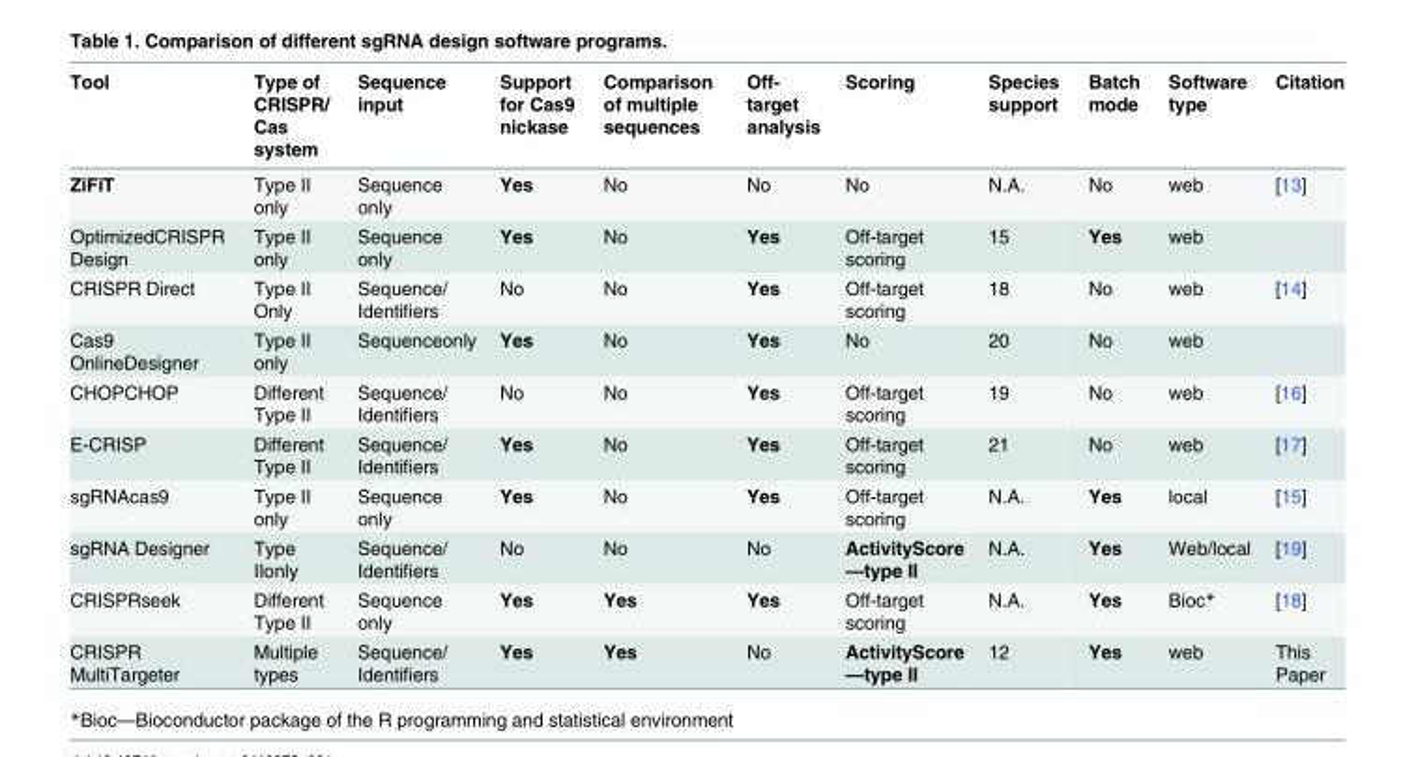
<table><thead><tr><td>Tool</td><td>Type of CRISPR/ Cas system</td><td>Sequence input</td><td>Support for Cas9 nickase</td><td>Comparison of multiple sequences</td><td>Off- target analysis</td><td>Scoring</td><td>Species support</td><td>Batch mode</td><td>Software type</td><td>Citation</td></tr></thead><tbody><tr><td>ZiFiT</td><td>Type II only</td><td>Sequence only</td><td>Yes</td><td>No</td><td>No</td><td>No</td><td>N.A.</td><td>No</td><td>web</td><td>[13]</td></tr><tr><td>OptimizedCRISPR Design</td><td>Type II only</td><td>Sequence only</td><td>Yes</td><td>No</td><td>Yes</td><td>Off-target scoring</td><td>15</td><td>Yes</td><td>web</td><td></td></tr><tr><td>CRISPR Direct</td><td>Type II Only</td><td>Sequence/ Identifiers</td><td>No</td><td>No</td><td>Yes</td><td>Off-target scoring</td><td>18</td><td>No</td><td>web</td><td>[14]</td></tr><tr><td>Cas9 OnlineDesigner</td><td>Type II only</td><td>Sequenceonly</td><td>Yes</td><td>No</td><td>Yes</td><td>No</td><td>20</td><td>No</td><td>web</td><td></td></tr><tr><td>CHOPCHOP</td><td>Different Type II</td><td>Sequence/ Identifiers</td><td>No</td><td>No</td><td>Yes</td><td>Off-target scoring</td><td>19</td><td>No</td><td>web</td><td>[16]</td></tr><tr><td>E-CRISP</td><td>Different Type II</td><td>Sequence/ Identifiers</td><td>Yes</td><td>No</td><td>Yes</td><td>Off-target scoring</td><td>21</td><td>No</td><td>web</td><td>[17]</td></tr><tr><td>sgRNAcas9</td><td>Type II only</td><td>Sequence only</td><td>Yes</td><td>No</td><td>Yes</td><td>Off-target scoring</td><td>N.A.</td><td>Yes</td><td>local</td><td>[15]</td></tr><tr><td>sgRNA Designer</td><td>Type IIonly</td><td>Sequence/ Identifiers</td><td>No</td><td>No</td><td>No</td><td>ActivityScore —type II</td><td>N.A.</td><td>Yes</td><td>Web/local</td><td>[19]</td></tr><tr><td>CRISPRseek</td><td>Different Type II</td><td>Sequence only</td><td>Yes</td><td>Yes</td><td>Yes</td><td>Off-target scoring</td><td>N.A.</td><td>Yes</td><td>Bioc*</td><td>[18]</td></tr><tr><td>CRISPR MultiTargeter</td><td>Multiple types</td><td>Sequence/ Identifiers</td><td>Yes</td><td>Yes</td><td>No</td><td>ActivityScore —type II</td><td>12</td><td>Yes</td><td>web</td><td>This Paper</td></tr></tbody></table>